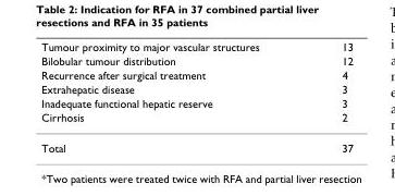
<table><thead><tr><td rowspan="6">Tumour proximity to major vascular structures Bilobular tumour distribution Recurrence after surgical treatment Extrahepatic disease Inadequate functional hepatic reserve Cirrhosis</td><td rowspan="6">13 12 4 3 3 2</td></tr><tr></tr><tr></tr><tr></tr><tr></tr><tr></tr></thead><tbody><tr><td>Total</td><td>37</td></tr></tbody></table>